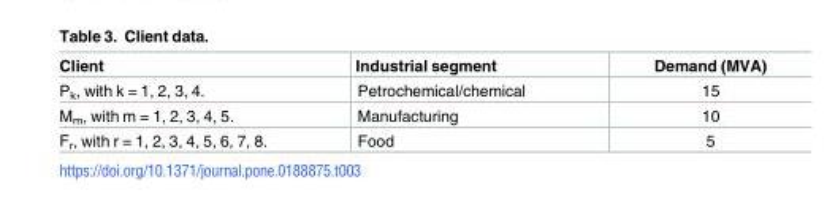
<table><thead><tr><td>Client</td><td>Industrial segment</td><td>Demand (MVA)</td></tr></thead><tbody><tr><td>P<sub>k</sub>, with k = 1, 2, 3, 4.</td><td>Petrochemical/chemical</td><td>15</td></tr><tr><td>M<sub>m</sub>, with m = 1, 2, 3, 4, 5.</td><td>Manufacturing</td><td>10</td></tr><tr><td>F<sub>r</sub>, with r = 1, 2, 3, 4, 5, 6, 7, 8.</td><td>Food</td><td>5</td></tr></tbody></table>